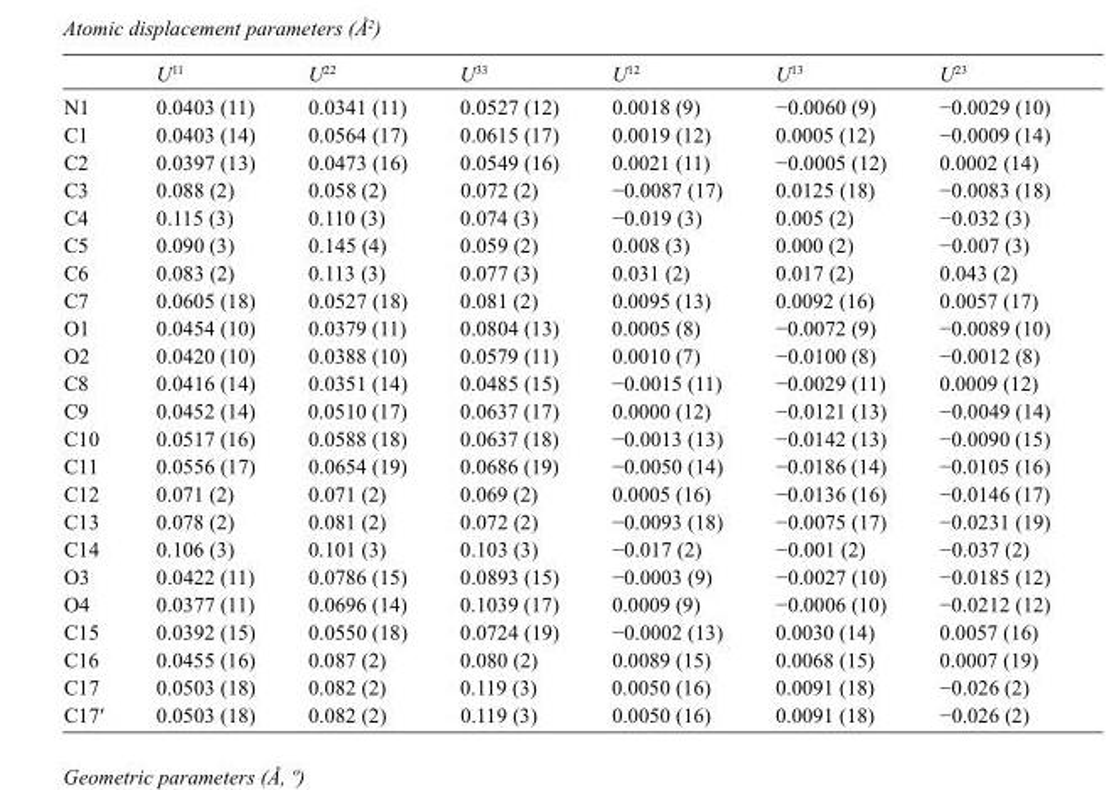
<table><thead><tr><td></td><td>U<sup>11</sup></td><td>U<sup>22</sup></td><td>U<sup>33</sup></td><td>U<sup>12</sup></td><td>U<sup>13</sup></td><td>U<sup>23</sup></td></tr></thead><tbody><tr><td>N1</td><td>0.0403 (11)</td><td>0.0341 (11)</td><td>0.0527 (12)</td><td>0.0018 (9)</td><td>−0.0060 (9)</td><td>−0.0029 (10)</td></tr><tr><td>C1</td><td>0.0403 (14)</td><td>0.0564 (17)</td><td>0.0615 (17)</td><td>0.0019 (12)</td><td>0.0005 (12)</td><td>−0.0009 (14)</td></tr><tr><td>C2</td><td>0.0397 (13)</td><td>0.0473 (16)</td><td>0.0549 (16)</td><td>0.0021 (11)</td><td>−0.0005 (12)</td><td>0.0002 (14)</td></tr><tr><td>C3</td><td>0.088 (2)</td><td>0.058 (2)</td><td>0.072 (2)</td><td>−0.0087 (17)</td><td>0.0125 (18)</td><td>−0.0083 (18)</td></tr><tr><td>C4</td><td>0.115 (3)</td><td>0.110 (3)</td><td>0.074 (3)</td><td>−0.019 (3)</td><td>0.005 (2)</td><td>−0.032 (3)</td></tr><tr><td>C5</td><td>0.090 (3)</td><td>0.145 (4)</td><td>0.059 (2)</td><td>0.008 (3)</td><td>0.000 (2)</td><td>−0.007 (3)</td></tr><tr><td>C6</td><td>0.083 (2)</td><td>0.113 (3)</td><td>0.077 (3)</td><td>0.031 (2)</td><td>0.017 (2)</td><td>0.043 (2)</td></tr><tr><td>C7</td><td>0.0605 (18)</td><td>0.0527 (18)</td><td>0.081 (2)</td><td>0.0095 (13)</td><td>0.0092 (16)</td><td>0.0057 (17)</td></tr><tr><td>O1</td><td>0.0454 (10)</td><td>0.0379 (11)</td><td>0.0804 (13)</td><td>0.0005 (8)</td><td>−0.0072 (9)</td><td>−0.0089 (10)</td></tr><tr><td>O2</td><td>0.0420 (10)</td><td>0.0388 (10)</td><td>0.0579 (11)</td><td>0.0010 (7)</td><td>−0.0100 (8)</td><td>−0.0012 (8)</td></tr><tr><td>C8</td><td>0.0416 (14)</td><td>0.0351 (14)</td><td>0.0485 (15)</td><td>−0.0015 (11)</td><td>−0.0029 (11)</td><td>0.0009 (12)</td></tr><tr><td>C9</td><td>0.0452 (14)</td><td>0.0510 (17)</td><td>0.0637 (17)</td><td>0.0000 (12)</td><td>−0.0121 (13)</td><td>−0.0049 (14)</td></tr><tr><td>C10</td><td>0.0517 (16)</td><td>0.0588 (18)</td><td>0.0637 (18)</td><td>−0.0013 (13)</td><td>−0.0142 (13)</td><td>−0.0090 (15)</td></tr><tr><td>C11</td><td>0.0556 (17)</td><td>0.0654 (19)</td><td>0.0686 (19)</td><td>−0.0050 (14)</td><td>−0.0186 (14)</td><td>−0.0105 (16)</td></tr><tr><td>C12</td><td>0.071 (2)</td><td>0.071 (2)</td><td>0.069 (2)</td><td>0.0005 (16)</td><td>−0.0136 (16)</td><td>−0.0146 (17)</td></tr><tr><td>C13</td><td>0.078 (2)</td><td>0.081 (2)</td><td>0.072 (2)</td><td>−0.0093 (18)</td><td>−0.0075 (17)</td><td>−0.0231 (19)</td></tr><tr><td>C14</td><td>0.106 (3)</td><td>0.101 (3)</td><td>0.103 (3)</td><td>−0.017 (2)</td><td>−0.001 (2)</td><td>−0.037 (2)</td></tr><tr><td>O3</td><td>0.0422 (11)</td><td>0.0786 (15)</td><td>0.0893 (15)</td><td>−0.0003 (9)</td><td>−0.0027 (10)</td><td>−0.0185 (12)</td></tr><tr><td>O4</td><td>0.0377 (11)</td><td>0.0696 (14)</td><td>0.1039 (17)</td><td>0.0009 (9)</td><td>−0.0006 (10)</td><td>−0.0212 (12)</td></tr><tr><td>C15</td><td>0.0392 (15)</td><td>0.0550 (18)</td><td>0.0724 (19)</td><td>−0.0002 (13)</td><td>0.0030 (14)</td><td>0.0057 (16)</td></tr><tr><td>C16</td><td>0.0455 (16)</td><td>0.087 (2)</td><td>0.080 (2)</td><td>0.0089 (15)</td><td>0.0068 (15)</td><td>0.0007 (19)</td></tr><tr><td>C17</td><td>0.0503 (18)</td><td>0.082 (2)</td><td>0.119 (3)</td><td>0.0050 (16)</td><td>0.0091 (18)</td><td>−0.026 (2)</td></tr><tr><td>C17′</td><td>0.0503 (18)</td><td>0.082 (2)</td><td>0.119 (3)</td><td>0.0050 (16)</td><td>0.0091 (18)</td><td>−0.026 (2)</td></tr></tbody></table>